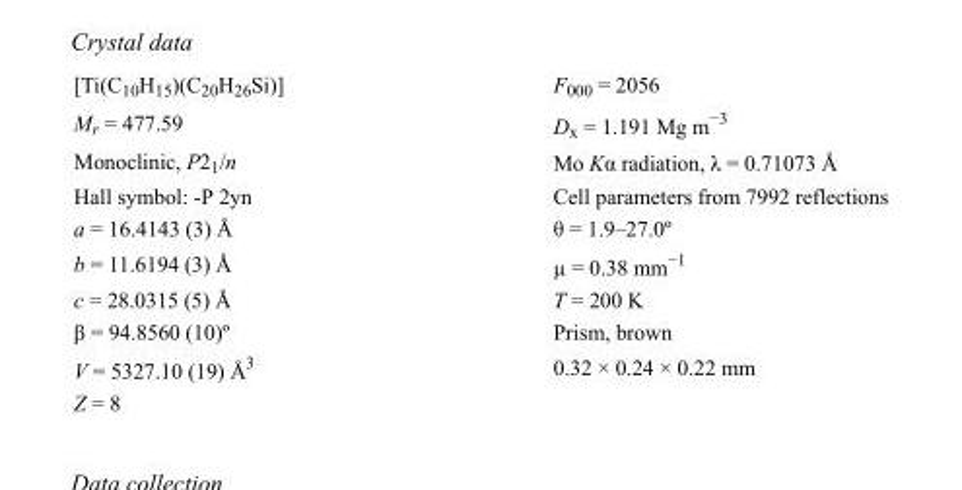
<table><tbody><tr><td>[Ti(C<sub>10</sub>H<sub>15</sub>)(C<sub>20</sub>H<sub>26</sub>Si)]</td><td>F000 = 2056</td></tr><tr><td>M<sub>r</sub> = 477.59</td><td>D<sub>x</sub> = 1.191 Mg m<sup>−3</sup></td></tr><tr><td>Monoclinic, P2<sub>1</sub>/n</td><td>Mo Kα radiation, λ = 0.71073 Å</td></tr><tr><td>Hall symbol: -P 2yn</td><td>Cell parameters from 7992 reflections</td></tr><tr><td>a = 16.4143 (3) Å</td><td>θ = 1.9–27.0º</td></tr><tr><td>b = 11.6194 (3) Å</td><td>µ = 0.38 mm<sup>−1</sup></td></tr><tr><td>c = 28.0315 (5) Å</td><td>T = 200 K</td></tr><tr><td>β = 94.8560 (10)º</td><td>Prism, brown</td></tr><tr><td>V = 5327.10 (19) Å<sup>3</sup></td><td>0.32 × 0.24 × 0.22 mm</td></tr><tr><td>Z = 8</td><td></td></tr></tbody></table>